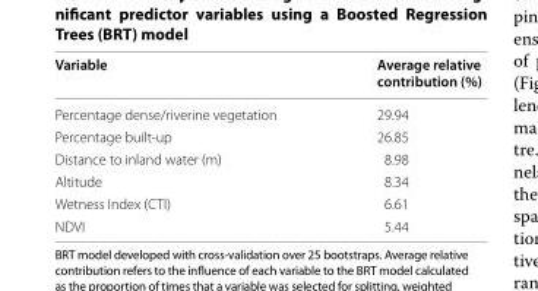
<table><thead><tr><td>Variable</td><td>Average relative contribution (%)</td></tr></thead><tbody><tr><td>Percentage dense/riverine vegetation</td><td>29.94</td></tr><tr><td>Percentage built-up</td><td>26.85</td></tr><tr><td>Distance to inland water (m)</td><td>8.98</td></tr><tr><td>Altitude</td><td>8.34</td></tr><tr><td>Wetness Index (CTI)</td><td>6.61</td></tr><tr><td>NDVI</td><td>5.44</td></tr></tbody></table>